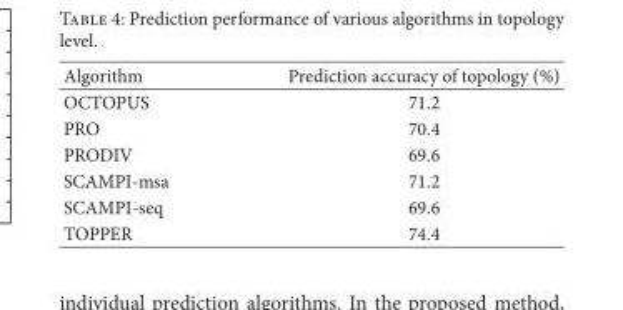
<table><thead><tr><td>Algorithm</td><td>Prediction accuracy of topology (%)</td></tr></thead><tbody><tr><td>OCTOPUS</td><td>71.2</td></tr><tr><td>PRO</td><td>70.4</td></tr><tr><td>PRODIV</td><td>69.6</td></tr><tr><td>SCAMPI-msa</td><td>71.2</td></tr><tr><td>SCAMPI-seq</td><td>69.6</td></tr><tr><td>TOPPER</td><td>74.4</td></tr></tbody></table>